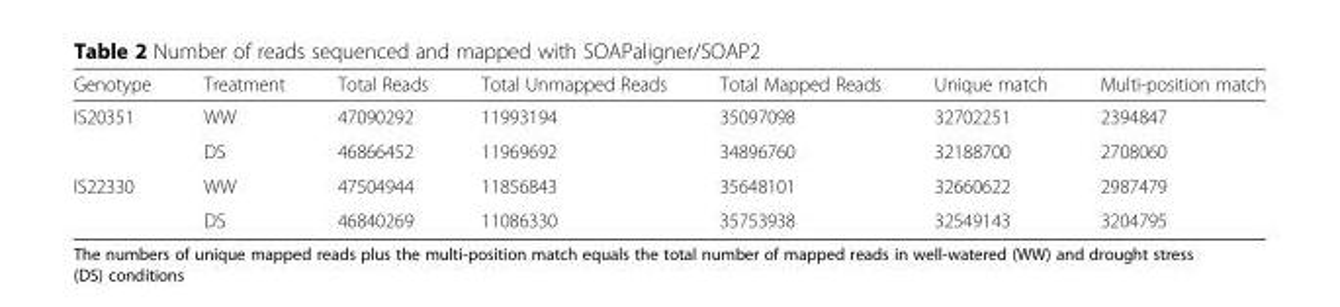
<table><thead><tr><td>Genotype</td><td>Treatment</td><td>Total Reads</td><td>Total Unmapped Reads</td><td>Total Mapped Reads</td><td>Unique match</td><td>Multi-position match</td></tr></thead><tbody><tr><td rowspan="2">IS20351</td><td>WW</td><td>47090292</td><td>11993194</td><td>35097098</td><td>32702251</td><td>2394847</td></tr><tr><td>DS</td><td>46866452</td><td>11969692</td><td>34896760</td><td>32188700</td><td>2708060</td></tr><tr><td rowspan="2">IS22330</td><td>WW</td><td>47504944</td><td>11856843</td><td>35648101</td><td>32660622</td><td>2987479</td></tr><tr><td>DS</td><td>46840269</td><td>11086330</td><td>35753938</td><td>32549143</td><td>3204795</td></tr></tbody></table>